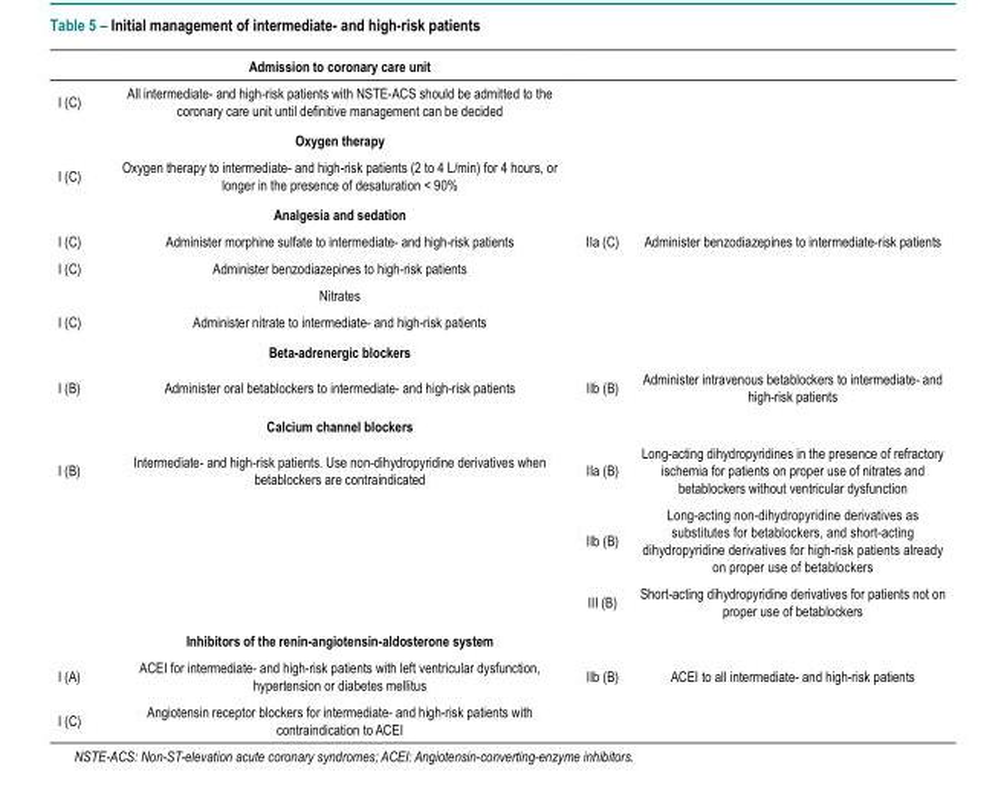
<table><thead><tr><td></td><td>Admission to coronary care unit</td><td></td><td></td></tr></thead><tbody><tr><td rowspan="2">I (C)</td><td>All intermediate- and high-risk patients with NSTE-ACS should be admitted to the coronary care unit until definitive management can be decided</td><td></td><td></td></tr><tr><td>Oxygen therapy</td><td></td><td></td></tr><tr><td rowspan="2">I (C)</td><td>Oxygen therapy to intermediate- and high-risk patients (2 to 4 L/min) for 4 hours, or longer in the presence of desaturation &lt; 90%</td><td></td><td></td></tr><tr><td>Analgesia and sedation</td><td></td><td></td></tr><tr><td>I (C)</td><td>Administer morphine sulfate to intermediate- and high-risk patients</td><td>IIa (C)</td><td>Administer benzodiazepines to intermediate-risk patients</td></tr><tr><td>I (C)</td><td>Administer benzodiazepines to high-risk patients Nitrates</td><td></td><td></td></tr><tr><td rowspan="2">I (C)</td><td>Administer nitrate to intermediate- and high-risk patients</td><td></td><td></td></tr><tr><td>Beta-adrenergic blockers</td><td></td><td></td></tr><tr><td rowspan="2">I (B)</td><td>Administer oral betablockers to intermediate- and high-risk patients</td><td>IIb (B)</td><td>Administer intravenous betablockers to intermediate- and high-risk patients</td></tr><tr><td>Calcium channel blockers</td><td></td><td></td></tr><tr><td rowspan="4">I (B)</td><td>Intermediate- and high-risk patients. Use non-dihydropyridine derivatives when betablockers are contraindicated</td><td>IIa (B)</td><td>Long-acting dihydropyridines in the presence of refractory ischemia for patients on proper use of nitrates and betablockers without ventricular dysfunction</td></tr><tr><td></td><td>IIb (B)</td><td>Long-acting non-dihydropyridine derivatives as substitutes for betablockers, and short-acting dihydropyridine derivatives for high-risk patients already on proper use of betablockers</td></tr><tr><td></td><td>III (B)</td><td>Short-acting dihydropyridine derivatives for patients not on proper use of betablockers</td></tr><tr><td>Inhibitors of the renin-angiotensin-aldosterone system</td><td></td><td></td></tr><tr><td>I (A)</td><td>ACEI for intermediate- and high-risk patients with left ventricular dysfunction, hypertension or diabetes mellitus</td><td>IIb (B)</td><td>ACEI to all intermediate- and high-risk patients</td></tr><tr><td>I (C)</td><td>Angiotensin receptor blockers for intermediate- and high-risk patients with contraindication to ACEI</td><td></td><td></td></tr></tbody></table>